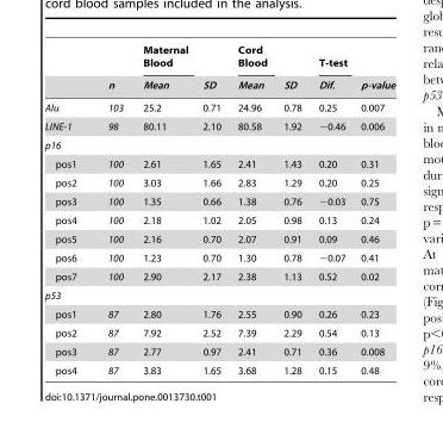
<table><thead><tr><td rowspan="2"></td><td rowspan="2">n</td><td rowspan="2">Maternal Blood Mean</td><td rowspan="2">SD</td><td rowspan="2">Cord Blood Mean</td><td rowspan="2">SD</td><td rowspan="2">T-test Dif.</td><td rowspan="2">p-value</td></tr><tr></tr></thead><tbody><tr><td>Alu</td><td>103</td><td>25.2</td><td>0.71</td><td>24.96</td><td>0.78</td><td>0.25</td><td>0.007</td></tr><tr><td>LINE-1</td><td>98</td><td>80.11</td><td>2.10</td><td>80.58</td><td>1.92</td><td>−0.46</td><td>0.006</td></tr><tr><td colspan="8">p16</td></tr><tr><td>pos1</td><td>100</td><td>2.61</td><td>1.65</td><td>2.41</td><td>1.43</td><td>0.20</td><td>0.31</td></tr><tr><td>pos2</td><td>100</td><td>3.03</td><td>1.66</td><td>2.83</td><td>1.29</td><td>0.20</td><td>0.25</td></tr><tr><td>pos3</td><td>100</td><td>1.35</td><td>0.66</td><td>1.38</td><td>0.76</td><td>−0.03</td><td>0.75</td></tr><tr><td>pos4</td><td>100</td><td>2.18</td><td>1.02</td><td>2.05</td><td>0.98</td><td>0.13</td><td>0.24</td></tr><tr><td>pos5</td><td>100</td><td>2.16</td><td>0.70</td><td>2.07</td><td>0.91</td><td>0.09</td><td>0.46</td></tr><tr><td>pos6</td><td>100</td><td>1.23</td><td>0.70</td><td>1.30</td><td>0.78</td><td>−0.07</td><td>0.41</td></tr><tr><td>pos7</td><td>100</td><td>2.90</td><td>2.17</td><td>2.38</td><td>1.13</td><td>0.52</td><td>0.02</td></tr><tr><td colspan="8">p53</td></tr><tr><td>pos1</td><td>87</td><td>2.80</td><td>1.76</td><td>2.55</td><td>0.90</td><td>0.26</td><td>0.23</td></tr><tr><td>pos2</td><td>87</td><td>7.92</td><td>2.52</td><td>7.39</td><td>2.29</td><td>0.54</td><td>0.13</td></tr><tr><td>pos3</td><td>87</td><td>2.77</td><td>0.97</td><td>2.41</td><td>0.71</td><td>0.36</td><td>0.008</td></tr><tr><td>pos4</td><td>87</td><td>3.83</td><td>1.65</td><td>3.68</td><td>1.28</td><td>0.15</td><td>0.48</td></tr></tbody></table>